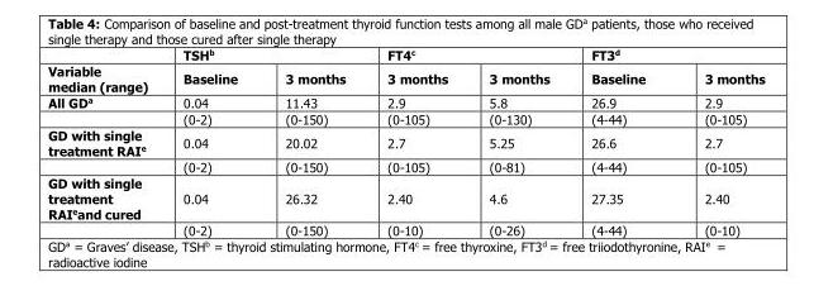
<table><thead><tr><td rowspan="2">Variable median (range)</td><td colspan="2">TSH<sup>b</sup></td><td colspan="2">FT4<sup>c</sup></td><td colspan="2">FT3<sup>d</sup></td></tr><tr><td>Baseline</td><td>3 months</td><td>3 months</td><td>3 months</td><td>Baseline</td><td>3 months</td></tr></thead><tbody><tr><td rowspan="2">All GD<sup>a</sup></td><td>0.04</td><td>11.43</td><td>2.9</td><td>5.8</td><td>26.9</td><td>2.9</td></tr><tr><td>(0-2)</td><td>(0-150)</td><td>(0-105)</td><td>(0-130)</td><td>(4-44)</td><td>(0-105)</td></tr><tr><td rowspan="2">GD with single treatment RAI<sup>e</sup></td><td>0.04</td><td>20.02</td><td>2.7</td><td>5.25</td><td>26.6</td><td>2.7</td></tr><tr><td>(0-2)</td><td>(0-150)</td><td>(0-105)</td><td>(0-81)</td><td>(4-44)</td><td>(0-105)</td></tr><tr><td rowspan="2">GD with single treatment RAI<sup>e</sup>and cured</td><td>0.04</td><td>26.32</td><td>2.40</td><td>4.6</td><td>27.35</td><td>2.40</td></tr><tr><td>(0-2)</td><td>(0-150)</td><td>(0-10)</td><td>(0-26)</td><td>(4-44)</td><td>(0-10)</td></tr></tbody></table>